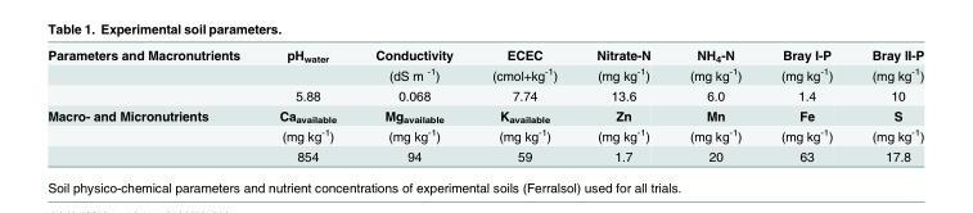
<table><tbody><tr><td rowspan="3">Parameters and Macronutrients</td><td>pH<sub>water</sub></td><td>Conductivity</td><td>ECEC</td><td>Nitrate-N</td><td>NH<sub>4</sub>-N</td><td>Bray I-P</td><td>Bray II-P</td></tr><tr><td></td><td>(dS m <sup>-1</sup>)</td><td>(cmol+kg<sup>-1</sup>)</td><td>(mg kg<sup>-1</sup>)</td><td>(mg kg<sup>-1</sup>)</td><td>(mg kg<sup>-1</sup>)</td><td>(mg kg<sup>-1</sup>)</td></tr><tr><td>5.88</td><td>0.068</td><td>7.74</td><td>13.6</td><td>6.0</td><td>1.4</td><td>10</td></tr><tr><td rowspan="3">Macro- and Micronutrients</td><td>Ca<sub>available</sub></td><td>Mg<sub>available</sub></td><td>K<sub>available</sub></td><td>Zn</td><td>Mn</td><td>Fe</td><td>S</td></tr><tr><td>(mg kg<sup>-1</sup>)</td><td>(mg kg<sup>-1</sup>)</td><td>(mg kg<sup>-1</sup>)</td><td>(mg kg<sup>-1</sup>)</td><td>(mg kg<sup>-1</sup>)</td><td>(mg kg<sup>-1</sup>)</td><td>(mg kg<sup>-1</sup>)</td></tr><tr><td>854</td><td>94</td><td>59</td><td>1.7</td><td>20</td><td>63</td><td>17.8</td></tr></tbody></table>